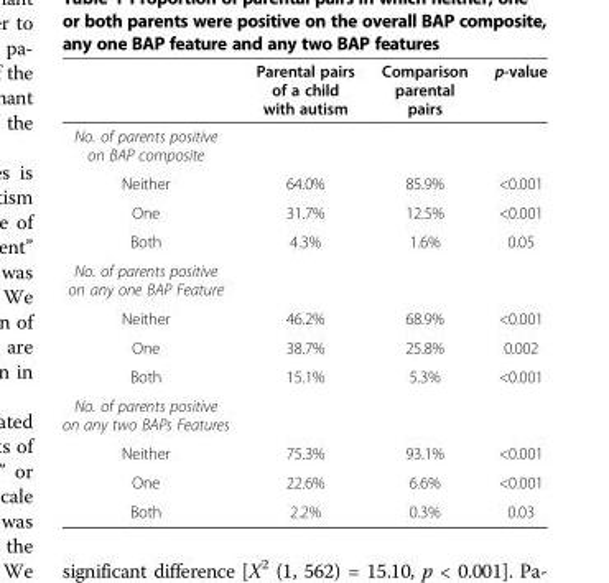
<table><thead><tr><td></td><td>Parental pairs of a child with autism</td><td>Comparison parental pairs</td><td>p-value</td></tr></thead><tbody><tr><td colspan="4">No. of parents positive on BAP composite</td></tr><tr><td>Neither</td><td>64.0%</td><td>85.9%</td><td>&lt;0.001</td></tr><tr><td>One</td><td>31.7%</td><td>12.5%</td><td>&lt;0.001</td></tr><tr><td>Both</td><td>4.3%</td><td>1.6%</td><td>0.05</td></tr><tr><td colspan="4">No. of parents positive on any one BAP Feature</td></tr><tr><td>Neither</td><td>46.2%</td><td>68.9%</td><td>&lt;0.001</td></tr><tr><td>One</td><td>38.7%</td><td>25.8%</td><td>0.002</td></tr><tr><td>Both</td><td>15.1%</td><td>5.3%</td><td>&lt;0.001</td></tr><tr><td colspan="4">No. of parents positive on any two BAPs Features</td></tr><tr><td>Neither</td><td>75.3%</td><td>93.1%</td><td>&lt;0.001</td></tr><tr><td>One</td><td>22.6%</td><td>6.6%</td><td>&lt;0.001</td></tr><tr><td>Both</td><td>2.2%</td><td>0.3%</td><td>0.03</td></tr></tbody></table>